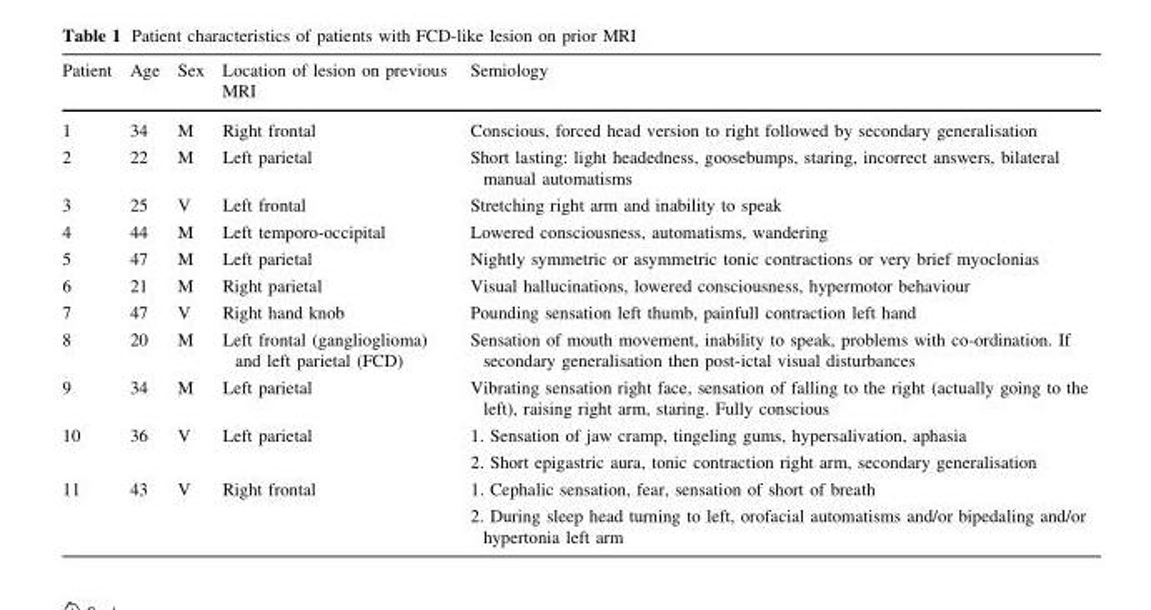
<table><thead><tr><td>Patient</td><td>Age</td><td>Sex</td><td>Location of lesion on previous MRI</td><td>Semiology</td></tr></thead><tbody><tr><td>1</td><td>34</td><td>M</td><td>Right frontal</td><td>Conscious, forced head version to right followed by secondary generalisation</td></tr><tr><td>2</td><td>22</td><td>M</td><td>Left parietal</td><td>Short lasting: light headedness, goosebumps, staring, incorrect answers, bilateral manual automatisms</td></tr><tr><td>3</td><td>25</td><td>V</td><td>Left frontal</td><td>Stretching right arm and inability to speak</td></tr><tr><td>4</td><td>44</td><td>M</td><td>Left temporo-occipital</td><td>Lowered consciousness, automatisms, wandering</td></tr><tr><td>5</td><td>47</td><td>M</td><td>Left parietal</td><td>Nightly symmetric or asymmetric tonic contractions or very brief myoclonias</td></tr><tr><td>6</td><td>21</td><td>M</td><td>Right parietal</td><td>Visual hallucinations, lowered consciousness, hypermotor behaviour</td></tr><tr><td>7</td><td>47</td><td>V</td><td>Right hand knob</td><td>Pounding sensation left thumb, painfull contraction left hand</td></tr><tr><td>8</td><td>20</td><td>M</td><td>Left frontal (ganglioglioma) and left parietal (FCD)</td><td>Sensation of mouth movement, inability to speak, problems with co-ordination. If secondary generalisation then post-ictal visual disturbances</td></tr><tr><td>9</td><td>34</td><td>M</td><td>Left parietal</td><td>Vibrating sensation right face, sensation of falling to the right (actually going to the left), raising right arm, staring. Fully conscious</td></tr><tr><td>10</td><td>36</td><td>V</td><td>Left parietal</td><td>1. Sensation of jaw cramp, tingeling gums, hypersalivation, aphasia 2. Short epigastric aura, tonic contraction right arm, secondary generalisation</td></tr><tr><td>11</td><td>43</td><td>V</td><td>Right frontal</td><td>1. Cephalic sensation, fear, sensation of short of breath 2. During sleep head turning to left, orofacial automatisms and/or bipedaling and/or hypertonia left arm</td></tr></tbody></table>